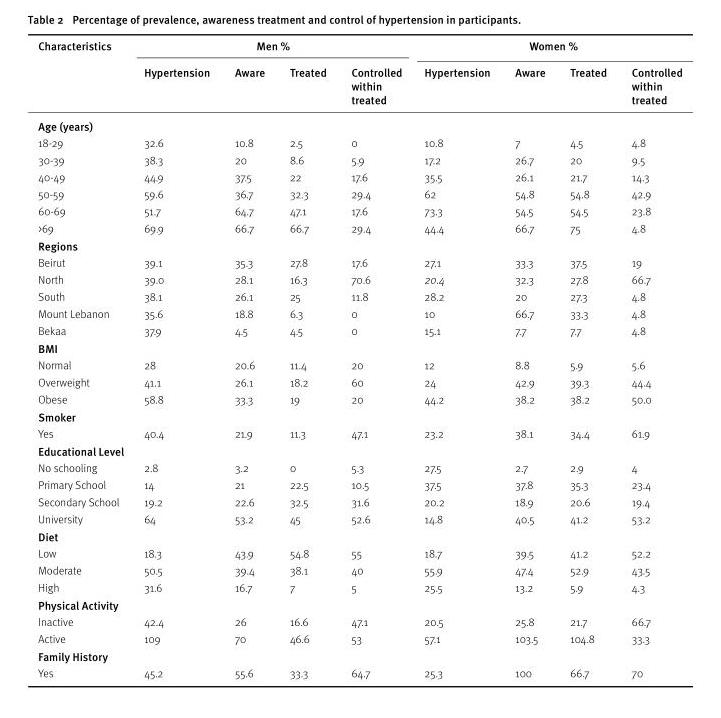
<table><thead><tr><td rowspan="2">Characteristics</td><td colspan="4">Men %</td><td colspan="4">Women %</td></tr><tr><td>Hypertension</td><td>Aware</td><td>Treated</td><td>Controlled within treated</td><td>Hypertension</td><td>Aware</td><td>Treated</td><td>Controlled within treated</td></tr></thead><tbody><tr><td colspan="9">Age (years)</td></tr><tr><td>18-29</td><td>32.6</td><td>10.8</td><td>2.5</td><td>0</td><td>10.8</td><td>7</td><td>4.5</td><td>4.8</td></tr><tr><td>30-39</td><td>38.3</td><td>20</td><td>8.6</td><td>5.9</td><td>17.2</td><td>26.7</td><td>20</td><td>9.5</td></tr><tr><td>40-49</td><td>44.9</td><td>37.5</td><td>22</td><td>17.6</td><td>35.5</td><td>26.1</td><td>21.7</td><td>14.3</td></tr><tr><td>50-59</td><td>59.6</td><td>36.7</td><td>32.3</td><td>29.4</td><td>62</td><td>54.8</td><td>54.8</td><td>42.9</td></tr><tr><td>60-69</td><td>51.7</td><td>64.7</td><td>47.1</td><td>17.6</td><td>73.3</td><td>54.5</td><td>54.5</td><td>23.8</td></tr><tr><td>&gt;69</td><td>69.9</td><td>66.7</td><td>66.7</td><td>29.4</td><td>44.4</td><td>66.7</td><td>75</td><td>4.8</td></tr><tr><td colspan="9">Regions</td></tr><tr><td>Beirut</td><td>39.1</td><td>35.3</td><td>27.8</td><td>17.6</td><td>27.1</td><td>33.3</td><td>37.5</td><td>19</td></tr><tr><td>North</td><td>39.0</td><td>28.1</td><td>16.3</td><td>70.6</td><td>20.4</td><td>32.3</td><td>27.8</td><td>66.7</td></tr><tr><td>South</td><td>38.1</td><td>26.1</td><td>25</td><td>11.8</td><td>28.2</td><td>20</td><td>27.3</td><td>4.8</td></tr><tr><td>Mount Lebanon</td><td>35.6</td><td>18.8</td><td>6.3</td><td>0</td><td>10</td><td>66.7</td><td>33.3</td><td>4.8</td></tr><tr><td>Bekaa</td><td>37.9</td><td>4.5</td><td>4.5</td><td>0</td><td>15.1</td><td>7.7</td><td>7.7</td><td>4.8</td></tr><tr><td colspan="9">BMI</td></tr><tr><td>Normal</td><td>28</td><td>20.6</td><td>11.4</td><td>20</td><td>12</td><td>8.8</td><td>5.9</td><td>5.6</td></tr><tr><td>Overweight</td><td>41.1</td><td>26.1</td><td>18.2</td><td>60</td><td>24</td><td>42.9</td><td>39.3</td><td>44.4</td></tr><tr><td>Obese</td><td>58.8</td><td>33.3</td><td>19</td><td>20</td><td>44.2</td><td>38.2</td><td>38.2</td><td>50.0</td></tr><tr><td colspan="9">Smoker</td></tr><tr><td>Yes</td><td>40.4</td><td>21.9</td><td>11.3</td><td>47.1</td><td>23.2</td><td>38.1</td><td>34.4</td><td>61.9</td></tr><tr><td colspan="9">Educational Level</td></tr><tr><td>No schooling</td><td>2.8</td><td>3.2</td><td>0</td><td>5.3</td><td>27.5</td><td>2.7</td><td>2.9</td><td>4</td></tr><tr><td>Primary School</td><td>14</td><td>21</td><td>22.5</td><td>10.5</td><td>37.5</td><td>37.8</td><td>35.3</td><td>23.4</td></tr><tr><td>Secondary School</td><td>19.2</td><td>22.6</td><td>32.5</td><td>31.6</td><td>20.2</td><td>18.9</td><td>20.6</td><td>19.4</td></tr><tr><td>University</td><td>64</td><td>53.2</td><td>45</td><td>52.6</td><td>14.8</td><td>40.5</td><td>41.2</td><td>53.2</td></tr><tr><td colspan="9">Diet</td></tr><tr><td>Low</td><td>18.3</td><td>43.9</td><td>54.8</td><td>55</td><td>18.7</td><td>39.5</td><td>41.2</td><td>52.2</td></tr><tr><td>Moderate</td><td>50.5</td><td>39.4</td><td>38.1</td><td>40</td><td>55.9</td><td>47.4</td><td>52.9</td><td>43.5</td></tr><tr><td>High</td><td>31.6</td><td>16.7</td><td>7</td><td>5</td><td>25.5</td><td>13.2</td><td>5.9</td><td>4.3</td></tr><tr><td colspan="9">Physical Activity</td></tr><tr><td>Inactive</td><td>42.4</td><td>26</td><td>16.6</td><td>47.1</td><td>20.5</td><td>25.8</td><td>21.7</td><td>66.7</td></tr><tr><td>Active</td><td>109</td><td>70</td><td>46.6</td><td>53</td><td>57.1</td><td>103.5</td><td>104.8</td><td>33.3</td></tr><tr><td colspan="9">Family History</td></tr><tr><td>Yes</td><td>45.2</td><td>55.6</td><td>33.3</td><td>64.7</td><td>25.3</td><td>100</td><td>66.7</td><td>70</td></tr></tbody></table>